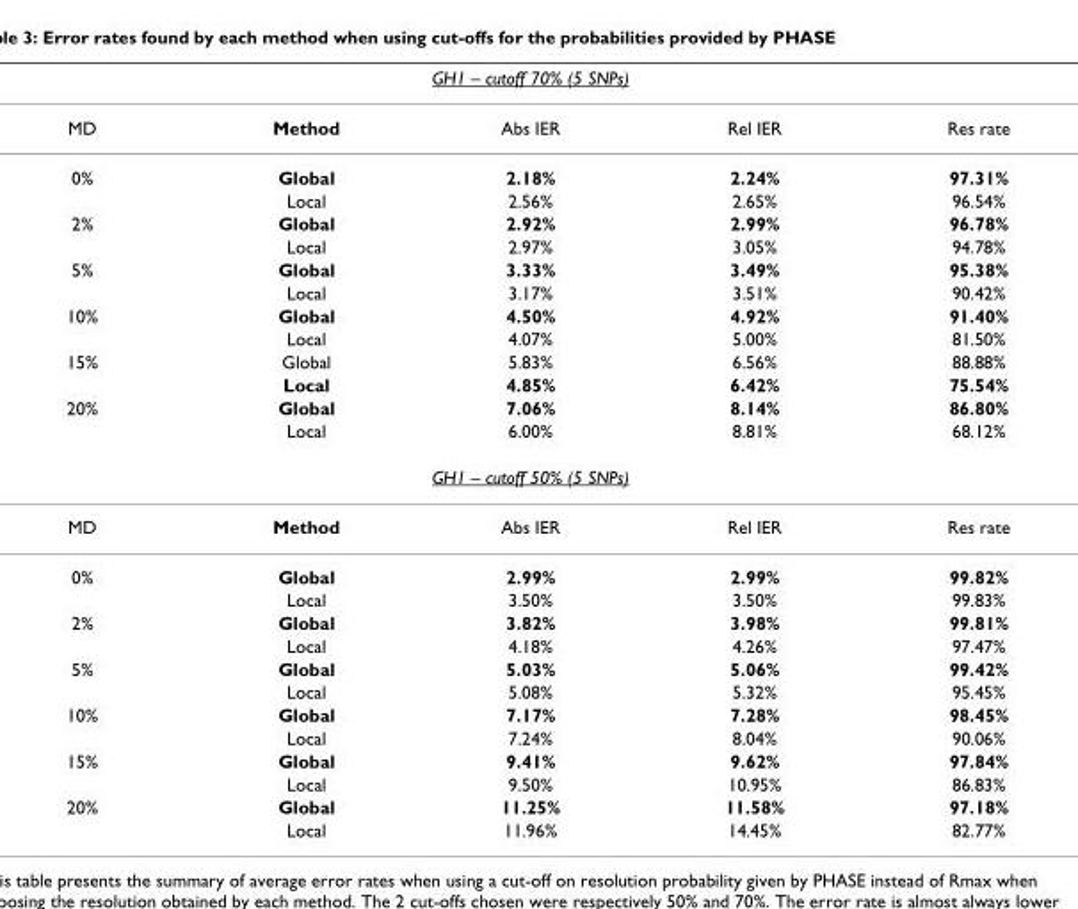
<table><thead><tr><td colspan="5">GH1 – cutoff 70% (5 SNPs)</td></tr><tr><td>MD</td><td>Method</td><td>Abs IER</td><td>Rel IER</td><td>Res rate</td></tr></thead><tbody><tr><td rowspan="2">0%</td><td>Global</td><td>2.18%</td><td>2.24%</td><td>97.31%</td></tr><tr><td>Local</td><td>2.56%</td><td>2.65%</td><td>96.54%</td></tr><tr><td rowspan="2">2%</td><td>Global</td><td>2.92%</td><td>2.99%</td><td>96.78%</td></tr><tr><td>Local</td><td>2.97%</td><td>3.05%</td><td>94.78%</td></tr><tr><td rowspan="2">5%</td><td>Global</td><td>3.33%</td><td>3.49%</td><td>95.38%</td></tr><tr><td>Local</td><td>3.17%</td><td>3.51%</td><td>90.42%</td></tr><tr><td rowspan="2">10%</td><td>Global</td><td>4.50%</td><td>4.92%</td><td>91.40%</td></tr><tr><td>Local</td><td>4.07%</td><td>5.00%</td><td>81.50%</td></tr><tr><td rowspan="2">15%</td><td>Global</td><td>5.83%</td><td>6.56%</td><td>88.88%</td></tr><tr><td>Local</td><td>4.85%</td><td>6.42%</td><td>75.54%</td></tr><tr><td rowspan="2">20%</td><td>Global</td><td>7.06%</td><td>8.14%</td><td>86.80%</td></tr><tr><td>Local</td><td>6.00%</td><td>8.81%</td><td>68.12%</td></tr><tr><td colspan="5">GH1 – cutoff 50% (5 SNPs)</td></tr><tr><td>MD</td><td>Method</td><td>Abs IER</td><td>Rel IER</td><td>Res rate</td></tr><tr><td rowspan="2">0%</td><td>Global</td><td>2.99%</td><td>2.99%</td><td>99.82%</td></tr><tr><td>Local</td><td>3.50%</td><td>3.50%</td><td>99.83%</td></tr><tr><td rowspan="2">2%</td><td>Global</td><td>3.82%</td><td>3.98%</td><td>99.81%</td></tr><tr><td>Local</td><td>4.18%</td><td>4.26%</td><td>97.47%</td></tr><tr><td rowspan="2">5%</td><td>Global</td><td>5.03%</td><td>5.06%</td><td>99.42%</td></tr><tr><td>Local</td><td>5.08%</td><td>5.32%</td><td>95.45%</td></tr><tr><td rowspan="2">10%</td><td>Global</td><td>7.17%</td><td>7.28%</td><td>98.45%</td></tr><tr><td>Local</td><td>7.24%</td><td>8.04%</td><td>90.06%</td></tr><tr><td rowspan="2">15%</td><td>Global</td><td>9.41%</td><td>9.62%</td><td>97.84%</td></tr><tr><td>Local</td><td>9.50%</td><td>10.95%</td><td>86.83%</td></tr><tr><td rowspan="2">20%</td><td>Global</td><td>11.25%</td><td>11.58%</td><td>97.18%</td></tr><tr><td>Local</td><td>11.96%</td><td>14.45%</td><td>82.77%</td></tr></tbody></table>